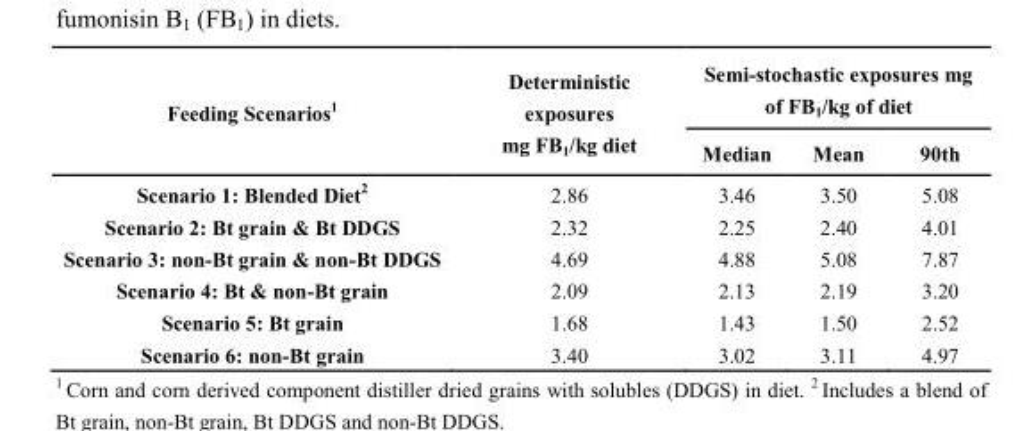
<table><thead><tr><td rowspan="2">Feeding Scenarios<sup>1</sup></td><td rowspan="2">Deterministic exposures mg FB<sub>1</sub>/kg diet</td><td colspan="3">Semi-stochastic exposures mg of FB<sub>1</sub>/kg of diet</td></tr><tr><td>Median</td><td>Mean</td><td>90th</td></tr></thead><tbody><tr><td>Scenario 1: Blended Diet<sup>2</sup></td><td>2.86</td><td>3.46</td><td>3.50</td><td>5.08</td></tr><tr><td>Scenario 2: Bt grain &amp; Bt DDGS</td><td>2.32</td><td>2.25</td><td>2.40</td><td>4.01</td></tr><tr><td>Scenario 3: non-Bt grain &amp; non-Bt DDGS</td><td>4.69</td><td>4.88</td><td>5.08</td><td>7.87</td></tr><tr><td>Scenario 4: Bt &amp; non-Bt grain</td><td>2.09</td><td>2.13</td><td>2.19</td><td>3.20</td></tr><tr><td>Scenario 5: Bt grain</td><td>1.68</td><td>1.43</td><td>1.50</td><td>2.52</td></tr><tr><td>Scenario 6: non-Bt grain</td><td>3.40</td><td>3.02</td><td>3.11</td><td>4.97</td></tr></tbody></table>